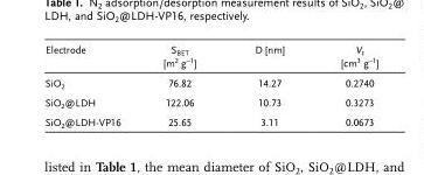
<table><thead><tr><td>Electrode</td><td>S<sub>BET</sub> [m<sup>2</sup> g<sup>-1</sup>]</td><td>D [nm]</td><td>V<sub>t</sub> [cm<sup>3</sup> g<sup>-1</sup>]</td></tr></thead><tbody><tr><td>SiO<sub>2</sub></td><td>76.82</td><td>14.27</td><td>0.2740</td></tr><tr><td>SiO<sub>2</sub>@LDH</td><td>122.06</td><td>10.73</td><td>0.3273</td></tr><tr><td>SiO<sub>2</sub>@LDH-VP16</td><td>25.65</td><td>3.11</td><td>0.0673</td></tr></tbody></table>